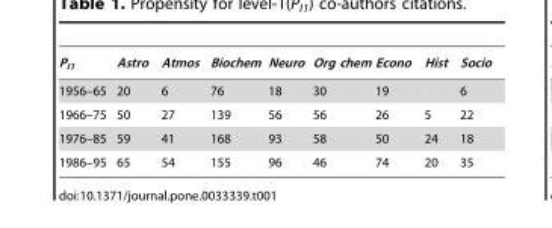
<table><thead><tr><td>P<sub>l1</sub></td><td>Astro</td><td>Atmos</td><td>Biochem</td><td>Neuro</td><td>Org chem</td><td>Econo</td><td>Hist</td><td>Socio</td></tr></thead><tbody><tr><td>1956–65</td><td>20</td><td>6</td><td>76</td><td>18</td><td>30</td><td>19</td><td></td><td>6</td></tr><tr><td>1966–75</td><td>50</td><td>27</td><td>139</td><td>56</td><td>56</td><td>26</td><td>5</td><td>22</td></tr><tr><td>1976–85</td><td>59</td><td>41</td><td>168</td><td>93</td><td>58</td><td>50</td><td>24</td><td>18</td></tr><tr><td>1986–95</td><td>65</td><td>54</td><td>155</td><td>96</td><td>46</td><td>74</td><td>20</td><td>35</td></tr></tbody></table>